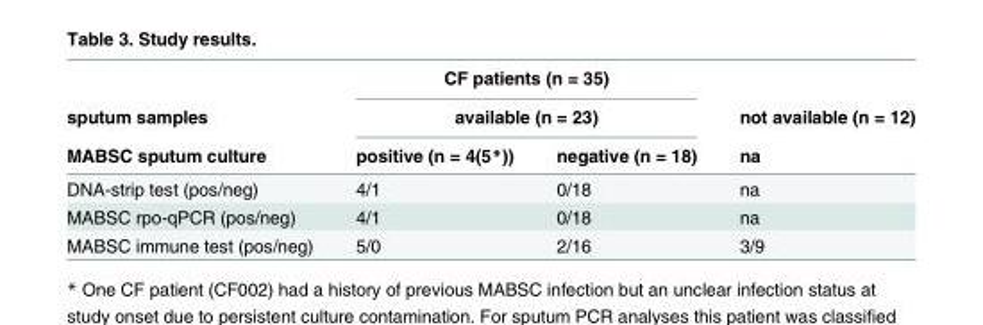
<table><thead><tr><td rowspan="3">sputum samples MABSC sputum culture</td><td rowspan="2" colspan="2">CF patients (n = 35) available (n = 23)</td><td rowspan="3">not available (n = 12) na</td></tr><tr></tr><tr><td>positive (n = 4(5*))</td><td>negative (n = 18)</td></tr></thead><tbody><tr><td>DNA-strip test (pos/neg)</td><td>4/1</td><td>0/18</td><td>na</td></tr><tr><td>MABSC rpo-qPCR (pos/neg)</td><td>4/1</td><td>0/18</td><td>na</td></tr><tr><td>MABSC immune test (pos/neg)</td><td>5/0</td><td>2/16</td><td>3/9</td></tr></tbody></table>